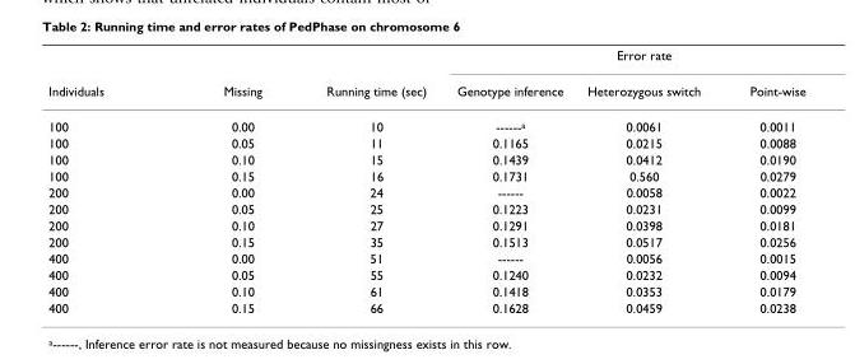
<table><thead><tr><td rowspan="2">Individuals</td><td rowspan="2">Missing</td><td rowspan="2">Running time (sec)</td><td colspan="3">Error rate</td></tr><tr><td>Genotype inference</td><td>Heterozygous switch</td><td>Point-wise</td></tr></thead><tbody><tr><td>100</td><td>0.00</td><td>10</td><td>------<sup>a</sup></td><td>0.0061</td><td>0.0011</td></tr><tr><td>100</td><td>0.05</td><td>11</td><td>0.1165</td><td>0.0215</td><td>0.0088</td></tr><tr><td>100</td><td>0.10</td><td>15</td><td>0.1439</td><td>0.0412</td><td>0.0190</td></tr><tr><td>100</td><td>0.15</td><td>16</td><td>0.1731</td><td>0.560</td><td>0.0279</td></tr><tr><td>200</td><td>0.00</td><td>24</td><td>------</td><td>0.0058</td><td>0.0022</td></tr><tr><td>200</td><td>0.05</td><td>25</td><td>0.1223</td><td>0.0231</td><td>0.0099</td></tr><tr><td>200</td><td>0.10</td><td>27</td><td>0.1291</td><td>0.0398</td><td>0.0181</td></tr><tr><td>200</td><td>0.15</td><td>35</td><td>0.1513</td><td>0.0517</td><td>0.0256</td></tr><tr><td>400</td><td>0.00</td><td>51</td><td>------</td><td>0.0056</td><td>0.0015</td></tr><tr><td>400</td><td>0.05</td><td>55</td><td>0.1240</td><td>0.0232</td><td>0.0094</td></tr><tr><td>400</td><td>0.10</td><td>61</td><td>0.1418</td><td>0.0353</td><td>0.0179</td></tr><tr><td>400</td><td>0.15</td><td>66</td><td>0.1628</td><td>0.0459</td><td>0.0238</td></tr></tbody></table>